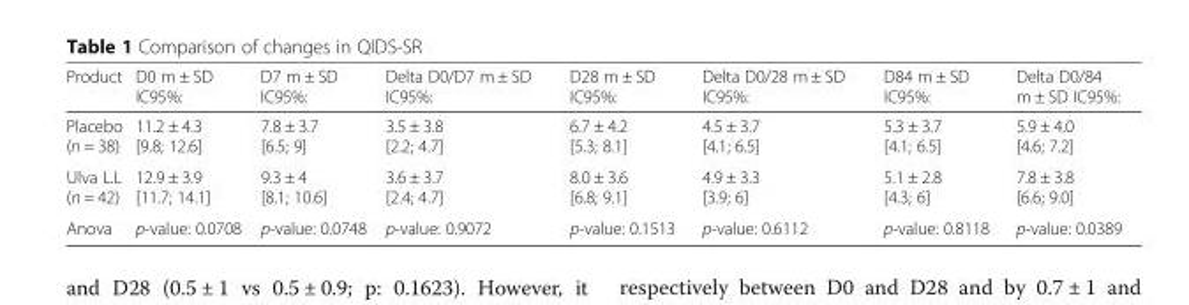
<table><thead><tr><td>Product</td><td>D0 m ± SD IC95%:</td><td>D7 m ± SD IC95%:</td><td>Delta D0/D7 m ± SD IC95%:</td><td>D28 m ± SD IC95%:</td><td>Delta D0/28 m ± SD IC95%:</td><td>D84 m ± SD IC95%:</td><td>Delta D0/84 m ± SD IC95%:</td></tr></thead><tbody><tr><td>Placebo (n = 38)</td><td>11.2 ± 4.3 [9.8; 12.6]</td><td>7.8 ± 3.7 [6.5; 9]</td><td>3.5 ± 3.8 [2.2; 4.7]</td><td>6.7 ± 4.2 [5.3; 8.1]</td><td>4.5 ± 3.7 [4.1; 6.5]</td><td>5.3 ± 3.7 [4.1; 6.5]</td><td>5.9 ± 4.0 [4.6; 7.2]</td></tr><tr><td>Ulva L.L (n = 42)</td><td>12.9 ± 3.9 [11.7; 14.1]</td><td>9.3 ± 4 [8.1; 10.6]</td><td>3.6 ± 3.7 [2.4; 4.7]</td><td>8.0 ± 3.6 [6.8; 9.1]</td><td>4.9 ± 3.3 [3.9; 6]</td><td>5.1 ± 2.8 [4.3; 6]</td><td>7.8 ± 3.8 [6.6; 9.0]</td></tr><tr><td>Anova</td><td>p-value: 0.0708</td><td>p-value: 0.0748</td><td>p-value: 0.9072</td><td>p-value: 0.1513</td><td>p-value: 0.6112</td><td>p-value: 0.8118</td><td>p-value: 0.0389</td></tr></tbody></table>